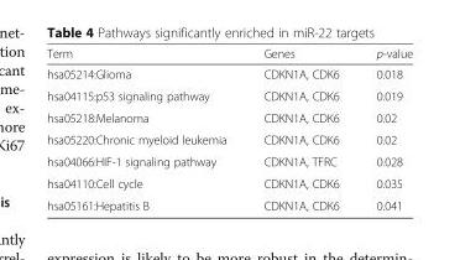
<table><thead><tr><td>Term</td><td>Genes</td><td>p-value</td></tr></thead><tbody><tr><td>hsa05214:Glioma</td><td>CDKN1A, CDK6</td><td>0.018</td></tr><tr><td>hsa04115:p53 signaling pathway</td><td>CDKN1A, CDK6</td><td>0.019</td></tr><tr><td>hsa05218:Melanoma</td><td>CDKN1A, CDK6</td><td>0.02</td></tr><tr><td>hsa05220:Chronic myeloid leukemia</td><td>CDKN1A, CDK6</td><td>0.02</td></tr><tr><td>hsa04066:HIF-1 signaling pathway</td><td>CDKN1A, TFRC</td><td>0.028</td></tr><tr><td>hsa04110:Cell cycle</td><td>CDKN1A, CDK6</td><td>0.035</td></tr><tr><td>hsa05161:Hepatitis B</td><td>CDKN1A, CDK6</td><td>0.041</td></tr></tbody></table>